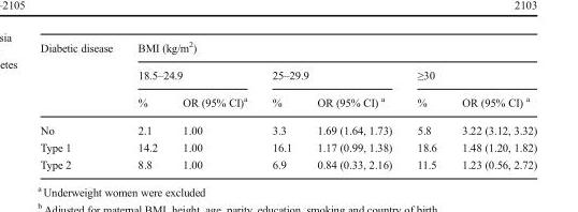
<table><thead><tr><td rowspan="3">Diabetic disease</td><td colspan="6">BMI (kg/m<sup>2</sup>)</td></tr><tr><td colspan="2">18.5–24.9</td><td colspan="2">25–29.9</td><td colspan="2">≥30</td></tr><tr><td>%</td><td>OR (95% CI)<sup>a</sup></td><td>%</td><td>OR (95% CI) <sup>a</sup></td><td>%</td><td>OR (95% CI) <sup>a</sup></td></tr></thead><tbody><tr><td>No</td><td>2.1</td><td>1.00</td><td>3.3</td><td>1.69 (1.64, 1.73)</td><td>5.8</td><td>3.22 (3.12, 3.32)</td></tr><tr><td>Type 1</td><td>14.2</td><td>1.00</td><td>16.1</td><td>1.17 (0.99, 1.38)</td><td>18.6</td><td>1.48 (1.20, 1.82)</td></tr><tr><td>Type 2</td><td>8.8</td><td>1.00</td><td>6.9</td><td>0.84 (0.33, 2.16)</td><td>11.5</td><td>1.23 (0.56, 2.72)</td></tr></tbody></table>